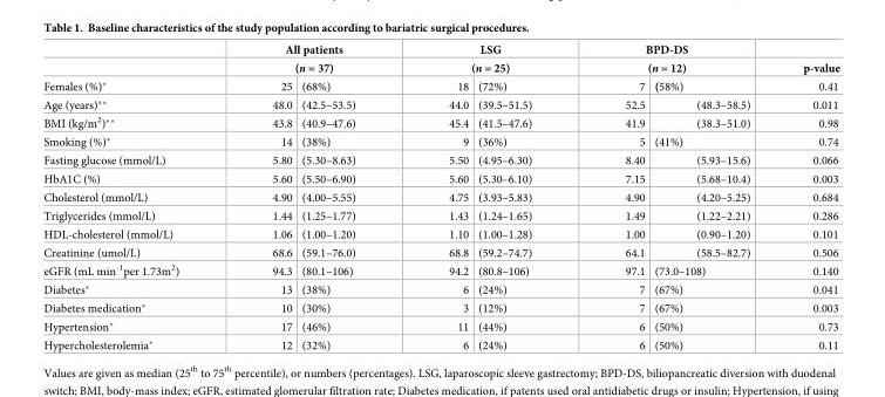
<table><thead><tr><td rowspan="3">Females (%)*</td><td rowspan="2" colspan="2">All patients (n = 37)</td><td rowspan="2" colspan="2">LSG (n = 25)</td><td rowspan="2" colspan="2">BPD-DS (n = 12)</td><td rowspan="3">p-value 0.41</td></tr><tr></tr><tr><td>25</td><td>(68%)</td><td>18</td><td>(72%)</td><td>7</td><td>(58%)</td></tr></thead><tbody><tr><td>Age (years)**</td><td>48.0</td><td>(42.5–53.5)</td><td>44.0</td><td>(39.5–51.5)</td><td>52.5</td><td>(48.3–58.5)</td><td>0.011</td></tr><tr><td>BMI (kg/m<sup>2</sup>)**</td><td>43.8</td><td>(40.9–47.6)</td><td>45.4</td><td>(41.5–47.6)</td><td>41.9</td><td>(38.3–51.0)</td><td>0.98</td></tr><tr><td>Smoking (%)*</td><td>14</td><td>(38%)</td><td>9</td><td>(36%)</td><td>5</td><td>(41%)</td><td>0.74</td></tr><tr><td>Fasting glucose (mmol/L)</td><td>5.80</td><td>(5.30–8.63)</td><td>5.50</td><td>(4.95–6.30)</td><td>8.40</td><td>(5.93–15.6)</td><td>0.066</td></tr><tr><td>HbA1C (%)</td><td>5.60</td><td>(5.50–6.90)</td><td>5.60</td><td>(5.30–6.10)</td><td>7.15</td><td>(5.68–10.4)</td><td>0.003</td></tr><tr><td>Cholesterol (mmol/L)</td><td>4.90</td><td>(4.00–5.55)</td><td>4.75</td><td>(3.93–5.83)</td><td>4.90</td><td>(4.20–5.25)</td><td>0.684</td></tr><tr><td>Triglycerides (mmol/L)</td><td>1.44</td><td>(1.25–1.77)</td><td>1.43</td><td>(1.24–1.65)</td><td>1.49</td><td>(1.22–2.21)</td><td>0.286</td></tr><tr><td>HDL-cholesterol (mmol/L)</td><td>1.06</td><td>(1.00–1.20)</td><td>1.10</td><td>(1.00–1.28)</td><td>1.00</td><td>(0.90–1.20)</td><td>0.101</td></tr><tr><td>Creatinine (umol/L)</td><td>68.6</td><td>(59.1–76.0)</td><td>68.8</td><td>(59.2–74.7)</td><td>64.1</td><td>(58.5–82.7)</td><td>0.506</td></tr><tr><td>eGFR (mL min<sup>-1</sup>per 1.73m<sup>2</sup>)</td><td>94.3</td><td>(80.1–106)</td><td>94.2</td><td>(80.8–106)</td><td>97.1</td><td>(73.0–108)</td><td>0.140</td></tr><tr><td>Diabetes*</td><td>13</td><td>(38%)</td><td>6</td><td>(24%)</td><td>7</td><td>(67%)</td><td>0.041</td></tr><tr><td>Diabetes medication*</td><td>10</td><td>(30%)</td><td>3</td><td>(12%)</td><td>7</td><td>(67%)</td><td>0.003</td></tr><tr><td>Hypertension*</td><td>17</td><td>(46%)</td><td>11</td><td>(44%)</td><td>6</td><td>(50%)</td><td>0.73</td></tr><tr><td>Hypercholesterolemia*</td><td>12</td><td>(32%)</td><td>6</td><td>(24%)</td><td>6</td><td>(50%)</td><td>0.11</td></tr></tbody></table>